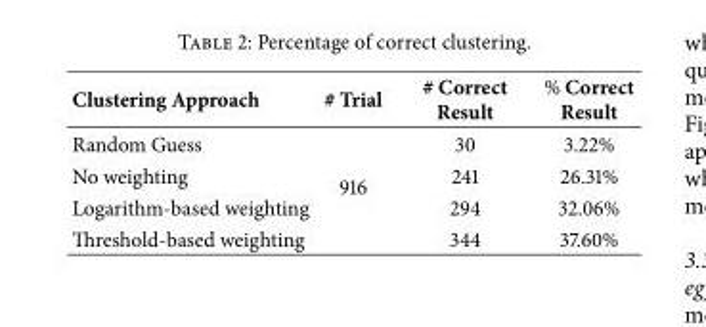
<table><thead><tr><td>Clustering Approach</td><td># Trial</td><td># Correct Result</td><td>% Correct Result</td></tr></thead><tbody><tr><td>Random Guess</td><td rowspan="4">916</td><td>30</td><td>3.22%</td></tr><tr><td>No weighting</td><td>241</td><td>26.31%</td></tr><tr><td>Logarithm-based weighting</td><td>294</td><td>32.06%</td></tr><tr><td>Threshold-based weighting</td><td>344</td><td>37.60%</td></tr></tbody></table>